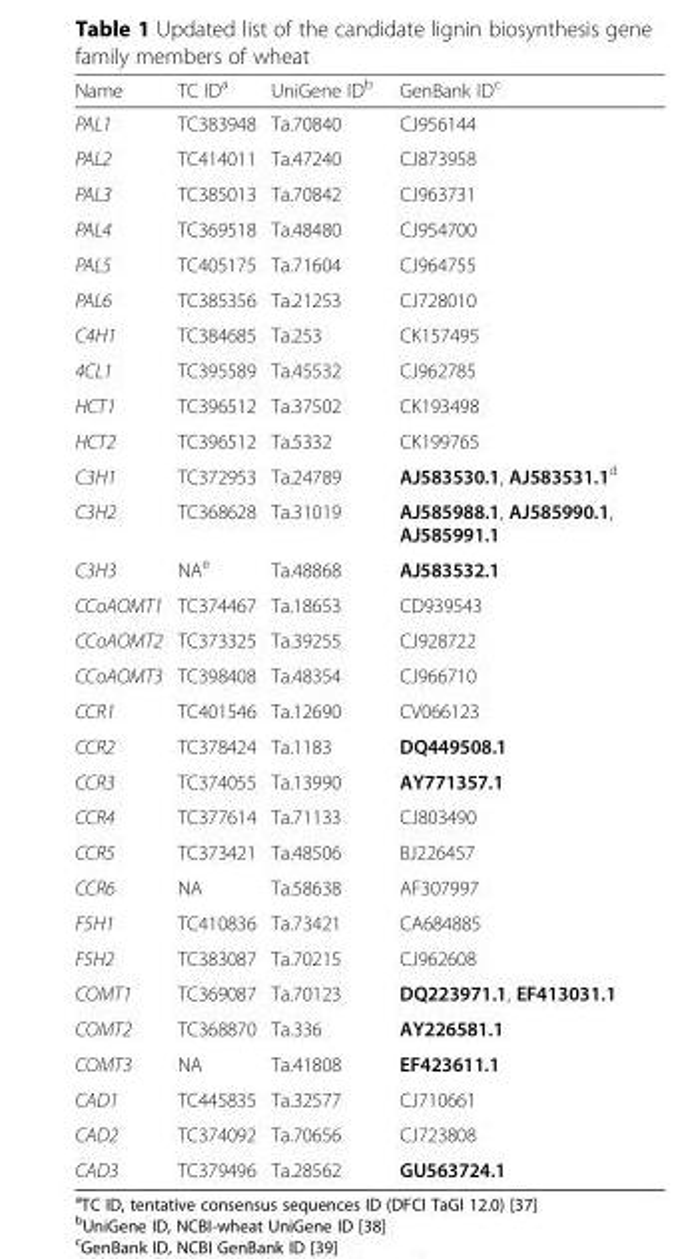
<table><thead><tr><td>Name</td><td>TC ID<sup>a</sup></td><td>UniGene ID<sup>b</sup></td><td>GenBank ID<sup>c</sup></td></tr></thead><tbody><tr><td>PAL1</td><td>TC383948</td><td>Ta.70840</td><td>CJ956144</td></tr><tr><td>PAL2</td><td>TC414011</td><td>Ta.47240</td><td>CJ873958</td></tr><tr><td>PAL3</td><td>TC385013</td><td>Ta.70842</td><td>CJ963731</td></tr><tr><td>PAL4</td><td>TC369518</td><td>Ta.48480</td><td>CJ954700</td></tr><tr><td>PAL5</td><td>TC405175</td><td>Ta.71604</td><td>CJ964755</td></tr><tr><td>PAL6</td><td>TC385356</td><td>Ta.21253</td><td>CJ728010</td></tr><tr><td>C4H1</td><td>TC384685</td><td>Ta.253</td><td>CK157495</td></tr><tr><td>4CL1</td><td>TC395589</td><td>Ta.45532</td><td>CJ962785</td></tr><tr><td>HCT1</td><td>TC396512</td><td>Ta.37502</td><td>CK193498</td></tr><tr><td>HCT2</td><td>TC396512</td><td>Ta.5332</td><td>CK199765</td></tr><tr><td>C3H1</td><td>TC372953</td><td>Ta.24789</td><td>AJ583530.1, AJ583531.1<sup>d</sup></td></tr><tr><td>C3H2</td><td>TC368628</td><td>Ta.31019</td><td>AJ585988.1, AJ585990.1, AJ585991.1</td></tr><tr><td>C3H3</td><td>NA<sup>e</sup></td><td>Ta.48868</td><td>AJ583532.1</td></tr><tr><td>CCoAOMT1</td><td>TC374467</td><td>Ta.18653</td><td>CD939543</td></tr><tr><td>CCoAOMT2</td><td>TC373325</td><td>Ta.39255</td><td>CJ928722</td></tr><tr><td>CCoAOMT3</td><td>TC398408</td><td>Ta.48354</td><td>CJ966710</td></tr><tr><td>CCR1</td><td>TC401546</td><td>Ta.12690</td><td>CV066123</td></tr><tr><td>CCR2</td><td>TC378424</td><td>Ta.1183</td><td>DQ449508.1</td></tr><tr><td>CCR3</td><td>TC374055</td><td>Ta.13990</td><td>AY771357.1</td></tr><tr><td>CCR4</td><td>TC377614</td><td>Ta.71133</td><td>CJ803490</td></tr><tr><td>CCR5</td><td>TC373421</td><td>Ta.48506</td><td>BJ226457</td></tr><tr><td>CCR6</td><td>NA</td><td>Ta.58638</td><td>AF307997</td></tr><tr><td>F5H1</td><td>TC410836</td><td>Ta.73421</td><td>CA684885</td></tr><tr><td>F5H2</td><td>TC383087</td><td>Ta.70215</td><td>CJ962608</td></tr><tr><td>COMT1</td><td>TC369087</td><td>Ta.70123</td><td>DQ223971.1, EF413031.1</td></tr><tr><td>COMT2</td><td>TC368870</td><td>Ta.336</td><td>AY226581.1</td></tr><tr><td>COMT3</td><td>NA</td><td>Ta.41808</td><td>EF423611.1</td></tr><tr><td>CAD1</td><td>TC445835</td><td>Ta.32577</td><td>CJ710661</td></tr><tr><td>CAD2</td><td>TC374092</td><td>Ta.70656</td><td>CJ723808</td></tr><tr><td>CAD3</td><td>TC379496</td><td>Ta.28562</td><td>GU563724.1</td></tr></tbody></table>